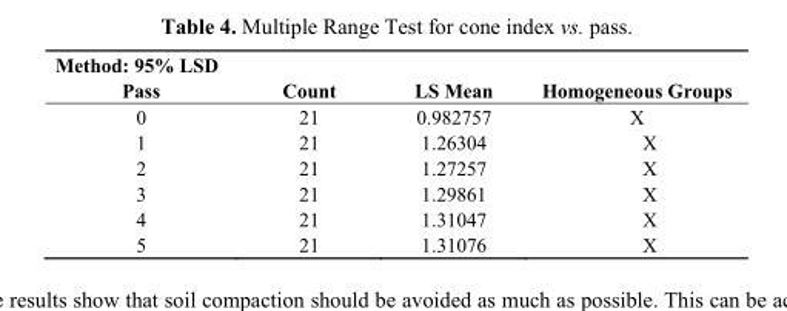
<table><thead><tr><td colspan="4">Method: 95% LSD</td></tr><tr><td>Pass</td><td>Count</td><td>LS Mean</td><td>Homogeneous Groups</td></tr></thead><tbody><tr><td>0</td><td>21</td><td>0.982757</td><td>X</td></tr><tr><td>1</td><td>21</td><td>1.26304</td><td>X</td></tr><tr><td>2</td><td>21</td><td>1.27257</td><td>X</td></tr><tr><td>3</td><td>21</td><td>1.29861</td><td>X</td></tr><tr><td>4</td><td>21</td><td>1.31047</td><td>X</td></tr><tr><td>5</td><td>21</td><td>1.31076</td><td>X</td></tr></tbody></table>